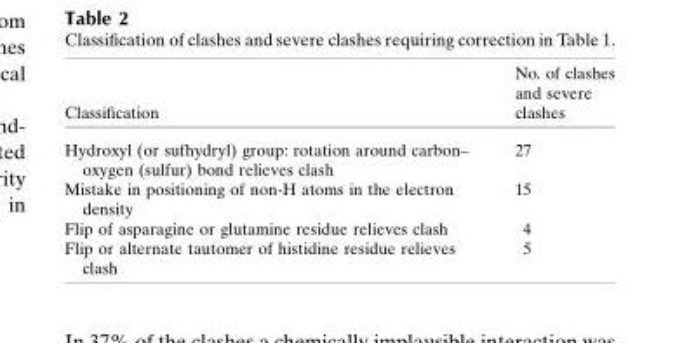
<table><thead><tr><td>Classification</td><td>No. of clashes and severe clashes</td></tr></thead><tbody><tr><td>Hydroxyl (or sufhydryl) group: rotation around carbon– oxygen (sulfur) bond relieves clash</td><td>27</td></tr><tr><td>Mistake in positioning of non-H atoms in the electron density</td><td>15</td></tr><tr><td>Flip of asparagine or glutamine residue relieves clash</td><td>4</td></tr><tr><td>Flip or alternate tautomer of histidine residue relieves clash</td><td>5</td></tr></tbody></table>